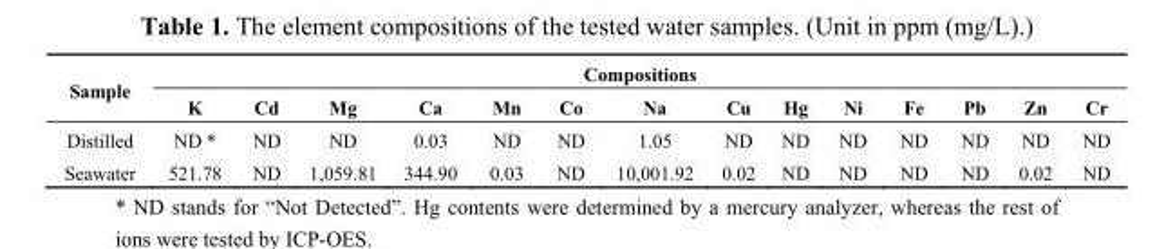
<table><thead><tr><td rowspan="2">Sample</td><td colspan="14">Compositions</td></tr><tr><td>K</td><td>Cd</td><td>Mg</td><td>Ca</td><td>Mn</td><td>Co</td><td>Na</td><td>Cu</td><td>Hg</td><td>Ni</td><td>Fe</td><td>Pb</td><td>Zn</td><td>Cr</td></tr></thead><tbody><tr><td>Distilled</td><td>ND *</td><td>ND</td><td>ND</td><td>0.03</td><td>ND</td><td>ND</td><td>1.05</td><td>ND</td><td>ND</td><td>ND</td><td>ND</td><td>ND</td><td>ND</td><td>ND</td></tr><tr><td>Seawater</td><td>521.78</td><td>ND</td><td>1,059.81</td><td>344.90</td><td>0.03</td><td>ND</td><td>10,001.92</td><td>0.02</td><td>ND</td><td>ND</td><td>ND</td><td>ND</td><td>0.02</td><td>ND</td></tr></tbody></table>